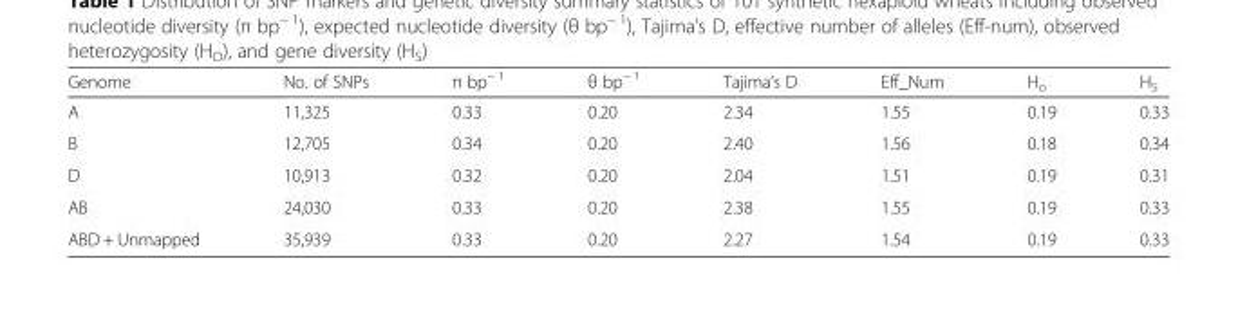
<table><thead><tr><td>Genome</td><td>No. of SNPs</td><td>π bp<sup>− 1</sup></td><td>θ bp<sup>− 1</sup></td><td>Tajima’s D</td><td>Eff_Num</td><td>H<sub>o</sub></td><td>H<sub>S</sub></td></tr></thead><tbody><tr><td>A</td><td>11,325</td><td>0.33</td><td>0.20</td><td>2.34</td><td>1.55</td><td>0.19</td><td>0.33</td></tr><tr><td>B</td><td>12,705</td><td>0.34</td><td>0.20</td><td>2.40</td><td>1.56</td><td>0.18</td><td>0.34</td></tr><tr><td>D</td><td>10,913</td><td>0.32</td><td>0.20</td><td>2.04</td><td>1.51</td><td>0.19</td><td>0.31</td></tr><tr><td>AB</td><td>24,030</td><td>0.33</td><td>0.20</td><td>2.38</td><td>1.55</td><td>0.19</td><td>0.33</td></tr><tr><td>ABD + Unmapped</td><td>35,939</td><td>0.33</td><td>0.20</td><td>2.27</td><td>1.54</td><td>0.19</td><td>0.33</td></tr></tbody></table>